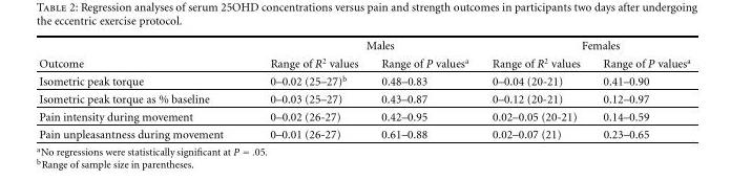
<table><thead><tr><td rowspan="2">Outcome</td><td colspan="2">Males</td><td colspan="2">Females</td></tr><tr><td>Range of R<sup>2</sup> values</td><td>Range of P values<sup>a</sup></td><td>Range of R<sup>2</sup> values</td><td>Range of P values<sup>a</sup></td></tr></thead><tbody><tr><td>Isometric peak torque</td><td>0–0.02 (25–27)<sup>b</sup></td><td>0.48–0.83</td><td>0–0.04 (20-21)</td><td>0.41–0.90</td></tr><tr><td>Isometric peak torque as % baseline</td><td>0–0.03 (25–27)</td><td>0.43–0.87</td><td>0–0.12 (20-21)</td><td>0.12–0.97</td></tr><tr><td>Pain intensity during movement</td><td>0–0.02 (26-27)</td><td>0.42–0.95</td><td>0.02–0.05 (20-21)</td><td>0.14–0.59</td></tr><tr><td>Pain unpleasantness during movement</td><td>0–0.01 (26-27)</td><td>0.61–0.88</td><td>0.02–0.07 (21)</td><td>0.23–0.65</td></tr></tbody></table>